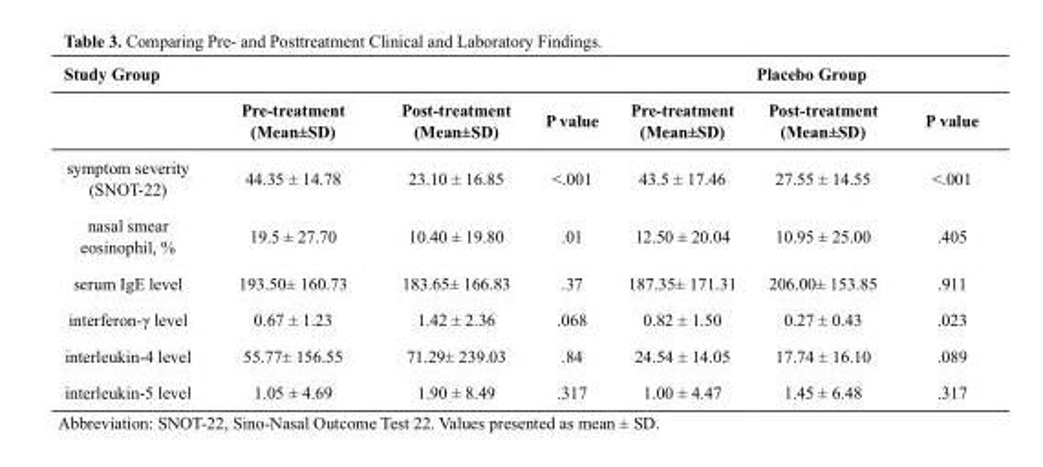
<table><thead><tr><td colspan="4">Study Group</td><td colspan="3">Placebo Group</td></tr><tr><td></td><td>Pre-treatment (Mean±SD)</td><td>Post-treatment (Mean±SD(</td><td>P value</td><td>Pre-treatment (Mean±SD(</td><td>Post-treatment (Mean±SD(</td><td>P value</td></tr></thead><tbody><tr><td>symptom severity (SNOT-22)</td><td>44.35 ± 14.78</td><td>23.10 ± 16.85</td><td>&lt;.001</td><td>43.5 ± 17.46</td><td>27.55 ± 14.55</td><td>&lt;.001</td></tr><tr><td>nasal smear eosinophil, %</td><td>19.5 ± 27.70</td><td>10.40 ± 19.80</td><td>.01</td><td>12.50 ± 20.04</td><td>10.95 ± 25.00</td><td>.405</td></tr><tr><td>serum IgE level</td><td>193.50± 160.73</td><td>183.65± 166.83</td><td>.37</td><td>187.35± 171.31</td><td>206.00± 153.85</td><td>.911</td></tr><tr><td>interferon-γ level</td><td>0.67 ± 1.23</td><td>1.42 ± 2.36</td><td>.068</td><td>0.82 ± 1.50</td><td>0.27 ± 0.43</td><td>.023</td></tr><tr><td>interleukin-4 level</td><td>55.77± 156.55</td><td>71.29± 239.03</td><td>.84</td><td>24.54 ± 14.05</td><td>17.74 ± 16.10</td><td>.089</td></tr><tr><td>interleukin-5 level</td><td>1.05 ± 4.69</td><td>1.90 ± 8.49</td><td>.317</td><td>1.00 ± 4.47</td><td>1.45 ± 6.48</td><td>.317</td></tr></tbody></table>